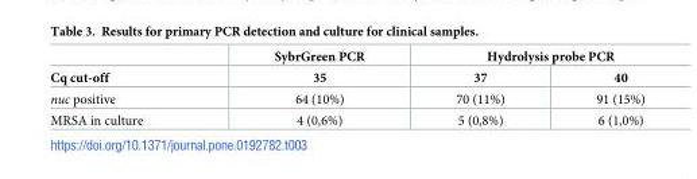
<table><thead><tr><td rowspan="2">Cq cut-off</td><td rowspan="2">SybrGreen PCR 35</td><td colspan="2">Hydrolysis probe PCR</td></tr><tr><td>37</td><td>40</td></tr></thead><tbody><tr><td>nuc positive</td><td>64 (10%)</td><td>70 (11%)</td><td>91 (15%)</td></tr><tr><td>MRSA in culture</td><td>4 (0,6%)</td><td>5 (0,8%)</td><td>6 (1,0%)</td></tr></tbody></table>